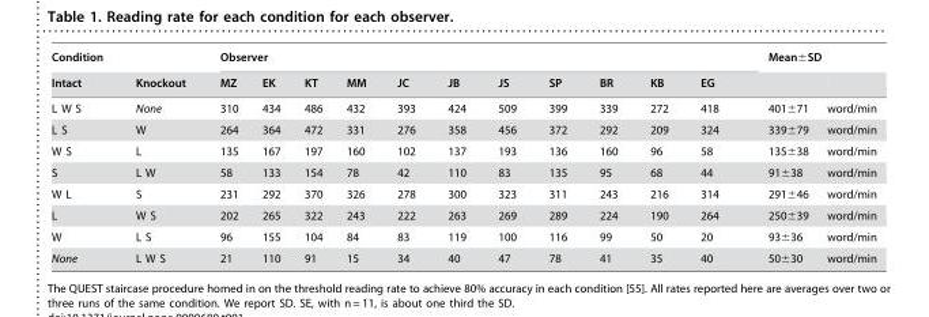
<table><thead><tr><td colspan="2">Condition</td><td colspan="11">Observer</td><td rowspan="2">Mean±SD</td><td rowspan="2"></td></tr><tr><td>Intact</td><td>Knockout</td><td>MZ</td><td>EK</td><td>KT</td><td>MM</td><td>JC</td><td>JB</td><td>JS</td><td>SP</td><td>BR</td><td>KB</td><td>EG</td></tr></thead><tbody><tr><td>L W S</td><td>None</td><td>310</td><td>434</td><td>486</td><td>432</td><td>393</td><td>424</td><td>509</td><td>399</td><td>339</td><td>272</td><td>418</td><td>401±71</td><td>word/min</td></tr><tr><td>L S</td><td>W</td><td>264</td><td>364</td><td>472</td><td>331</td><td>276</td><td>358</td><td>456</td><td>372</td><td>292</td><td>209</td><td>324</td><td>339±79</td><td>word/min</td></tr><tr><td>W S</td><td>L</td><td>135</td><td>167</td><td>197</td><td>160</td><td>102</td><td>137</td><td>193</td><td>136</td><td>160</td><td>96</td><td>58</td><td>135±38</td><td>word/min</td></tr><tr><td>S</td><td>L W</td><td>58</td><td>133</td><td>154</td><td>78</td><td>42</td><td>110</td><td>83</td><td>135</td><td>95</td><td>68</td><td>44</td><td>91±38</td><td>word/min</td></tr><tr><td>W L</td><td>S</td><td>231</td><td>292</td><td>370</td><td>326</td><td>278</td><td>300</td><td>323</td><td>311</td><td>243</td><td>216</td><td>314</td><td>291±46</td><td>word/min</td></tr><tr><td>L</td><td>W S</td><td>202</td><td>265</td><td>322</td><td>243</td><td>222</td><td>263</td><td>269</td><td>289</td><td>224</td><td>190</td><td>264</td><td>250±39</td><td>word/min</td></tr><tr><td>W</td><td>L S</td><td>96</td><td>155</td><td>104</td><td>84</td><td>83</td><td>119</td><td>100</td><td>116</td><td>99</td><td>50</td><td>20</td><td>93±36</td><td>word/min</td></tr><tr><td>None</td><td>L W S</td><td>21</td><td>110</td><td>91</td><td>15</td><td>34</td><td>40</td><td>47</td><td>78</td><td>41</td><td>35</td><td>40</td><td>50±30</td><td>word/min</td></tr></tbody></table>